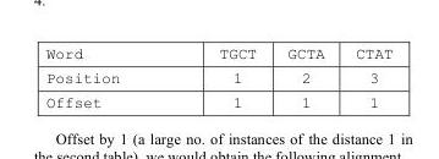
<table><tbody><tr><td>Word</td><td>TGCT</td><td>GCTA</td><td>CTAT</td></tr><tr><td>Position</td><td>1</td><td>2</td><td>3</td></tr><tr><td>Offset</td><td>1</td><td>1</td><td>1</td></tr></tbody></table>